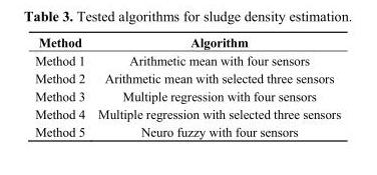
<table><thead><tr><td>Method</td><td>Algorithm</td></tr></thead><tbody><tr><td>Method 1</td><td>Arithmetic mean with four sensors</td></tr><tr><td>Method 2</td><td>Arithmetic mean with selected three sensors</td></tr><tr><td>Method 3</td><td>Multiple regression with four sensors</td></tr><tr><td>Method 4</td><td>Multiple regression with selected three sensors</td></tr><tr><td>Method 5</td><td>Neuro fuzzy with four sensors</td></tr></tbody></table>